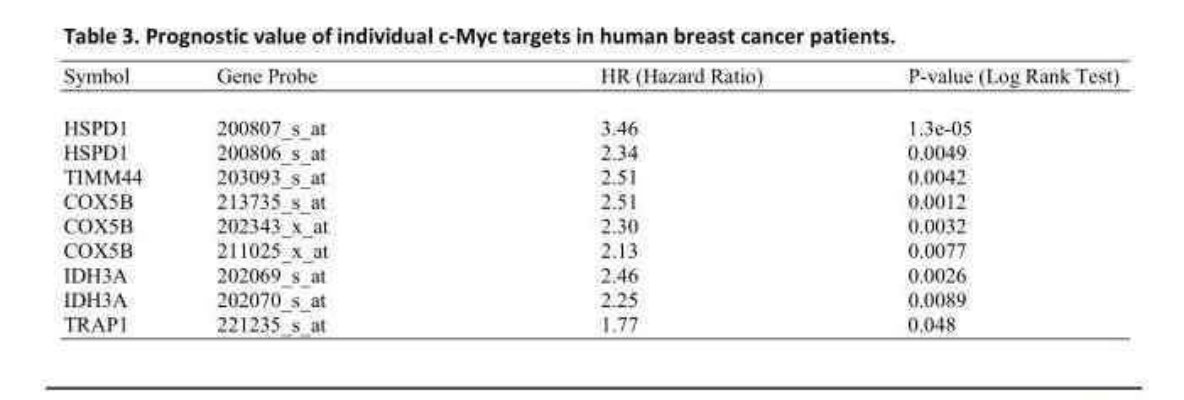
<table><thead><tr><td>Symbol</td><td>Gene Probe</td><td>HR (Hazard Ratio)</td><td>P-value (Log Rank Test)</td></tr></thead><tbody><tr><td>HSPD1</td><td>200807_s_at</td><td>3.46</td><td>1.3e-05</td></tr><tr><td>HSPD1</td><td>200806_s_at</td><td>2.34</td><td>0.0049</td></tr><tr><td>TIMM44</td><td>203093_s_at</td><td>2.51</td><td>0.0042</td></tr><tr><td>COX5B</td><td>213735_s_at</td><td>2.51</td><td>0.0012</td></tr><tr><td>COX5B</td><td>202343_x_at</td><td>2.30</td><td>0.0032</td></tr><tr><td>COX5B</td><td>211025_x_at</td><td>2.13</td><td>0.0077</td></tr><tr><td>IDH3A</td><td>202069_s_at</td><td>2.46</td><td>0.0026</td></tr><tr><td>IDH3A</td><td>202070_s_at</td><td>2.25</td><td>0.0089</td></tr><tr><td>TRAP1</td><td>221235_s_at</td><td>1.77</td><td>0.048</td></tr></tbody></table>